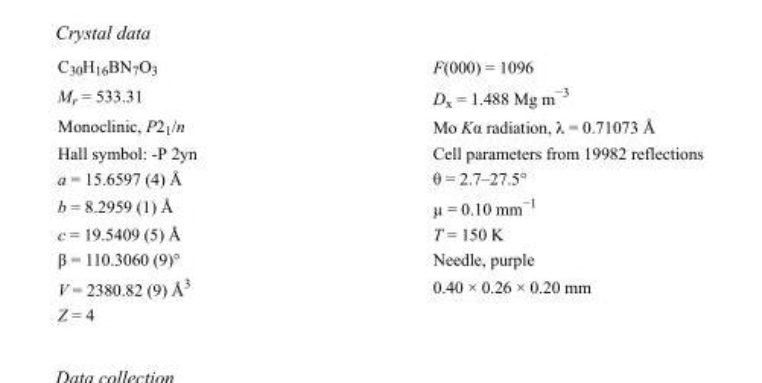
<table><tbody><tr><td>C<sub>30</sub>H<sub>16</sub>BN<sub>7</sub>O<sub>3</sub></td><td>F(000) = 1096</td></tr><tr><td>M<sub>r</sub> = 533.31</td><td>D<sub>x</sub> = 1.488 Mg m<sup>−3</sup></td></tr><tr><td>Monoclinic, P2<sub>1</sub>/n</td><td>Mo Kα radiation, λ = 0.71073 Å</td></tr><tr><td>Hall symbol: -P 2yn</td><td>Cell parameters from 19982 reflections</td></tr><tr><td>a = 15.6597 (4) Å</td><td>θ = 2.7–27.5°</td></tr><tr><td>b = 8.2959 (1) Å</td><td>µ = 0.10 mm<sup>−1</sup></td></tr><tr><td>c = 19.5409 (5) Å</td><td>T = 150 K</td></tr><tr><td>β = 110.3060 (9)°</td><td>Needle, purple</td></tr><tr><td>V = 2380.82 (9) Å<sup>3</sup></td><td>0.40 × 0.26 × 0.20 mm</td></tr><tr><td>Z = 4</td><td></td></tr></tbody></table>